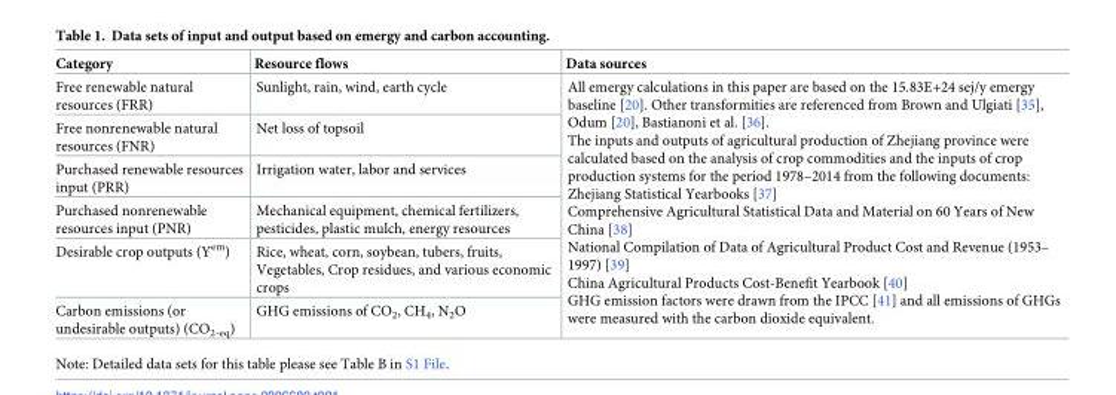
<table><thead><tr><td>Category</td><td>Resource flows</td><td>Data sources</td></tr></thead><tbody><tr><td>Free renewable natural resources (FRR)</td><td>Sunlight, rain, wind, earth cycle</td><td rowspan="6">All emergy calculations in this paper are based on the 15.83E+24 sej/y emergy baseline [20]. Other transformities are referenced from Brown and Ulgiati [35], Odum [20], Bastianoni et al. [36]. The inputs and outputs of agricultural production of Zhejiang province were calculated based on the analysis of crop commodities and the inputs of crop production systems for the period 1978–2014 from the following documents: Zhejiang Statistical Yearbooks [37] Comprehensive Agricultural Statistical Data and Material on 60 Years of New China [38] National Compilation of Data of Agricultural Product Cost and Revenue (1953– 1997) [39] China Agricultural Products Cost-Benefit Yearbook [40] GHG emission factors were drawn from the IPCC [41] and all emissions of GHGs were measured with the carbon dioxide equivalent.</td></tr><tr><td>Free nonrenewable natural resources (FNR)</td><td>Net loss of topsoil</td></tr><tr><td>Purchased renewable resources input (PRR)</td><td>Irrigation water, labor and services</td></tr><tr><td>Purchased nonrenewable resources input (PNR)</td><td>Mechanical equipment, chemical fertilizers, pesticides, plastic mulch, energy resources</td></tr><tr><td>Desirable crop outputs (Y<sup>em</sup>)</td><td>Rice, wheat, corn, soybean, tubers, fruits, Vegetables, Crop residues, and various economic crops</td></tr><tr><td>Carbon emissions (or undesirable outputs) (CO<sub>2-eq</sub>)</td><td>GHG emissions of CO<sub>2</sub>, CH<sub>4</sub>, N<sub>2</sub>O</td></tr></tbody></table>